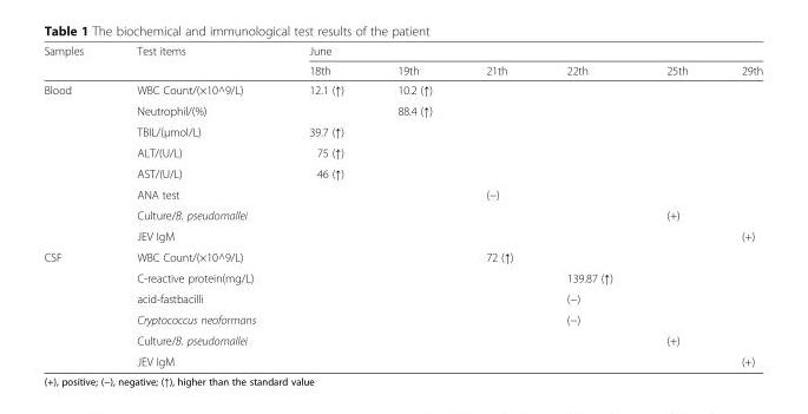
<table><thead><tr><td rowspan="2">Samples</td><td rowspan="2">Test items</td><td colspan="6">June</td></tr><tr><td>18th</td><td>19th</td><td>21th</td><td>22th</td><td>25th</td><td>29th</td></tr></thead><tbody><tr><td rowspan="8">Blood</td><td>WBC Count/(×10^9/L)</td><td>12.1 (↑)</td><td>10.2 (↑)</td><td></td><td></td><td></td><td></td></tr><tr><td>Neutrophil/(%)</td><td></td><td>88.4 (↑)</td><td></td><td></td><td></td><td></td></tr><tr><td>TBIL/(μmol/L)</td><td>39.7 (↑)</td><td></td><td></td><td></td><td></td><td></td></tr><tr><td>ALT/(U/L)</td><td>75 (↑)</td><td></td><td></td><td></td><td></td><td></td></tr><tr><td>AST/(U/L)</td><td>46 (↑)</td><td></td><td></td><td></td><td></td><td></td></tr><tr><td>ANA test</td><td></td><td></td><td>(−)</td><td></td><td></td><td></td></tr><tr><td>Culture/B. pseudomallei</td><td></td><td></td><td></td><td></td><td>(+)</td><td></td></tr><tr><td>JEV IgM</td><td></td><td></td><td></td><td></td><td></td><td>(+)</td></tr><tr><td rowspan="6">CSF</td><td>WBC Count/(×10^9/L)</td><td></td><td></td><td>72 (↑)</td><td></td><td></td><td></td></tr><tr><td>C-reactive protein(mg/L)</td><td></td><td></td><td></td><td>139.87 (↑)</td><td></td><td></td></tr><tr><td>acid-fastbacilli</td><td></td><td></td><td></td><td>(−)</td><td></td><td></td></tr><tr><td>Cryptococcus neoformans</td><td></td><td></td><td></td><td>(−)</td><td></td><td></td></tr><tr><td>Culture/B. pseudomallei</td><td></td><td></td><td></td><td></td><td>(+)</td><td></td></tr><tr><td>JEV IgM</td><td></td><td></td><td></td><td></td><td></td><td>(+)</td></tr></tbody></table>